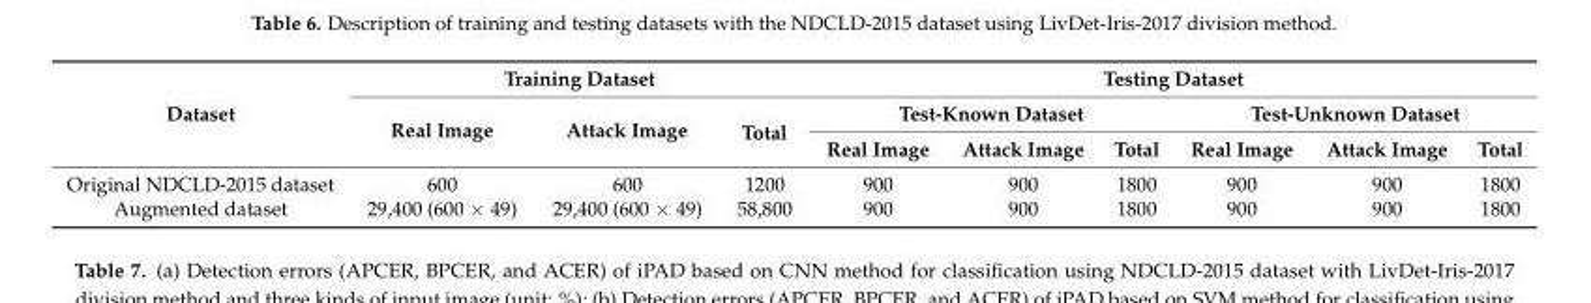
<table><thead><tr><td rowspan="3">Dataset</td><td colspan="3">Training Dataset</td><td colspan="6">Testing Dataset</td></tr><tr><td rowspan="2">Real Image</td><td rowspan="2">Attack Image</td><td rowspan="2">Total</td><td colspan="3">Test-Known Dataset</td><td colspan="3">Test-Unknown Dataset</td></tr><tr><td>Real Image</td><td>Attack Image</td><td>Total</td><td>Real Image</td><td>Attack Image</td><td>Total</td></tr></thead><tbody><tr><td>Original NDCLD-2015 dataset</td><td>600</td><td>600</td><td>1200</td><td>900</td><td>900</td><td>1800</td><td>900</td><td>900</td><td>1800</td></tr><tr><td>Augmented dataset</td><td>29,400 (600 × 49)</td><td>29,400 (600 × 49)</td><td>58,800</td><td>900</td><td>900</td><td>1800</td><td>900</td><td>900</td><td>1800</td></tr></tbody></table>